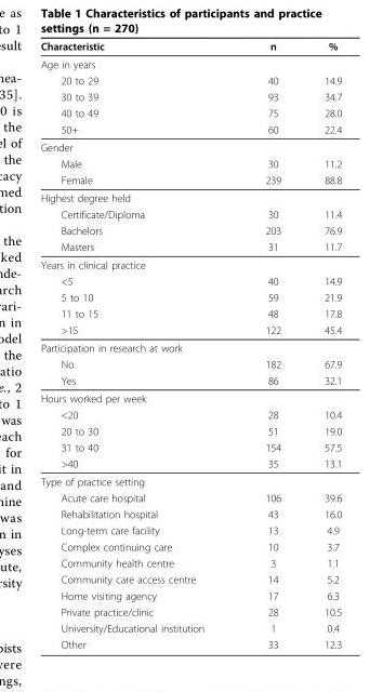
<table><thead><tr><td>Characteristic</td><td>n</td><td>%</td></tr></thead><tbody><tr><td colspan="3">Age in years</td></tr><tr><td>20 to 29</td><td>40</td><td>14.9</td></tr><tr><td>30 to 39</td><td>93</td><td>34.7</td></tr><tr><td>40 to 49</td><td>75</td><td>28.0</td></tr><tr><td>50+</td><td>60</td><td>22.4</td></tr><tr><td colspan="3">Gender</td></tr><tr><td>Male</td><td>30</td><td>11.2</td></tr><tr><td>Female</td><td>239</td><td>88.8</td></tr><tr><td colspan="3">Highest degree held</td></tr><tr><td>Certificate/Diploma</td><td>30</td><td>11.4</td></tr><tr><td>Bachelors</td><td>203</td><td>76.9</td></tr><tr><td>Masters</td><td>31</td><td>11.7</td></tr><tr><td colspan="3">Years in clinical practice</td></tr><tr><td>&lt;5</td><td>40</td><td>14.9</td></tr><tr><td>5 to 10</td><td>59</td><td>21.9</td></tr><tr><td>11 to 15</td><td>48</td><td>17.8</td></tr><tr><td>&gt;15</td><td>122</td><td>45.4</td></tr><tr><td colspan="3">Participation in research at work</td></tr><tr><td>No</td><td>182</td><td>67.9</td></tr><tr><td>Yes</td><td>86</td><td>32.1</td></tr><tr><td colspan="3">Hours worked per week</td></tr><tr><td>&lt;20</td><td>28</td><td>10.4</td></tr><tr><td>20 to 30</td><td>51</td><td>19.0</td></tr><tr><td>31 to 40</td><td>154</td><td>57.5</td></tr><tr><td>&gt;40</td><td>35</td><td>13.1</td></tr><tr><td colspan="3">Type of practice setting</td></tr><tr><td>Acute care hospital</td><td>106</td><td>39.6</td></tr><tr><td>Rehabilitation hospital</td><td>43</td><td>16.0</td></tr><tr><td>Long-term care facility</td><td>13</td><td>4.9</td></tr><tr><td>Complex continuing care</td><td>10</td><td>3.7</td></tr><tr><td>Community health centre</td><td>3</td><td>1.1</td></tr><tr><td>Community care access centre</td><td>14</td><td>5.2</td></tr><tr><td>Home visiting agency</td><td>17</td><td>6.3</td></tr><tr><td>Private practice/clinic</td><td>28</td><td>10.5</td></tr><tr><td>University/Educational institution</td><td>1</td><td>0.4</td></tr><tr><td>Other</td><td>33</td><td>12.3</td></tr></tbody></table>